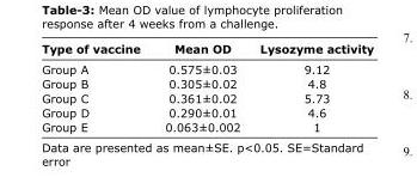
<table><thead><tr><td>Type of vaccine</td><td>Mean OD</td><td>Lysozyme activity</td></tr></thead><tbody><tr><td>Group A</td><td>0.575±0.03</td><td>9.12</td></tr><tr><td>Group B</td><td>0.305±0.02</td><td>4.8</td></tr><tr><td>Group C</td><td>0.361±0.02</td><td>5.73</td></tr><tr><td>Group D</td><td>0.290±0.01</td><td>4.6</td></tr><tr><td>Group E</td><td>0.063±0.002</td><td>1</td></tr></tbody></table>